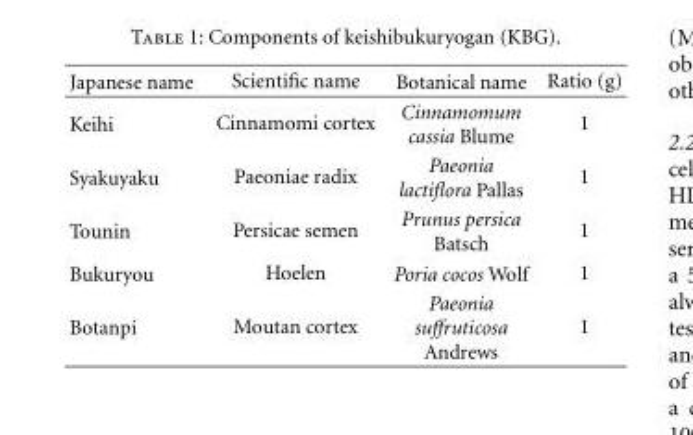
<table><thead><tr><td>Japanese name</td><td>Scientific name</td><td>Botanical name</td><td>Ratio (g)</td></tr></thead><tbody><tr><td>Keihi</td><td>Cinnamomi cortex</td><td>Cinnamomum cassia Blume</td><td>1</td></tr><tr><td>Syakuyaku</td><td>Paeoniae radix</td><td>Paeonia lactiflora Pallas</td><td>1</td></tr><tr><td>Tounin</td><td>Persicae semen</td><td>Prunus persica Batsch</td><td>1</td></tr><tr><td>Bukuryou</td><td>Hoelen</td><td>Poria cocos Wolf</td><td>1</td></tr><tr><td>Botanpi</td><td>Moutan cortex</td><td>Paeonia suffruticosa Andrews</td><td>1</td></tr></tbody></table>